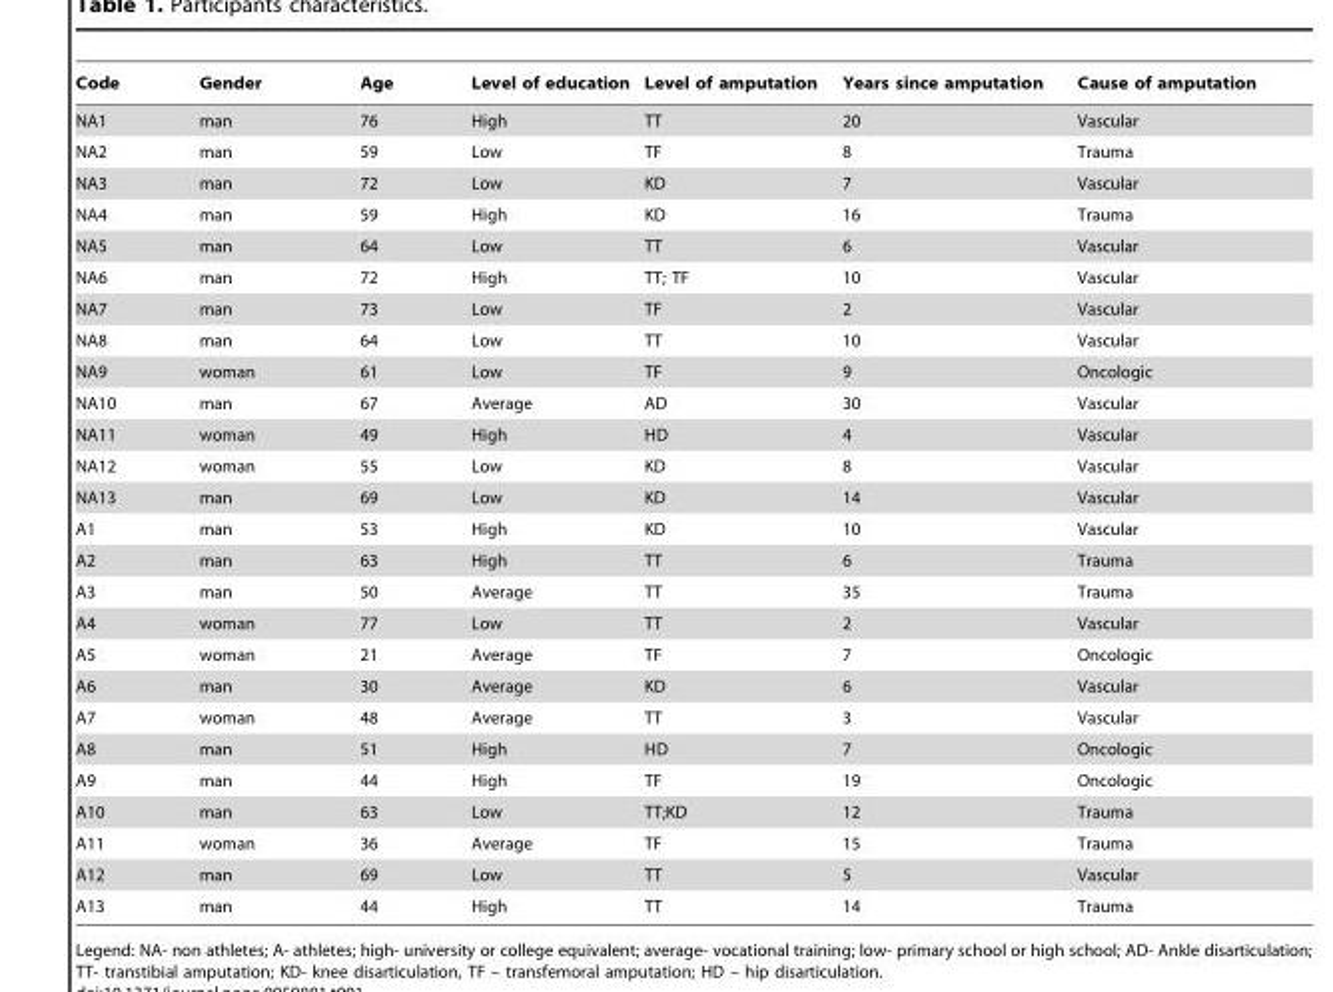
<table><thead><tr><td>Code</td><td>Gender</td><td>Age</td><td>Level of education</td><td>Level of amputation</td><td>Years since amputation</td><td>Cause of amputation</td></tr></thead><tbody><tr><td>NA1</td><td>man</td><td>76</td><td>High</td><td>TT</td><td>20</td><td>Vascular</td></tr><tr><td>NA2</td><td>man</td><td>59</td><td>Low</td><td>TF</td><td>8</td><td>Trauma</td></tr><tr><td>NA3</td><td>man</td><td>72</td><td>Low</td><td>KD</td><td>7</td><td>Vascular</td></tr><tr><td>NA4</td><td>man</td><td>59</td><td>High</td><td>KD</td><td>16</td><td>Trauma</td></tr><tr><td>NA5</td><td>man</td><td>64</td><td>Low</td><td>TT</td><td>6</td><td>Vascular</td></tr><tr><td>NA6</td><td>man</td><td>72</td><td>High</td><td>TT; TF</td><td>10</td><td>Vascular</td></tr><tr><td>NA7</td><td>man</td><td>73</td><td>Low</td><td>TF</td><td>2</td><td>Vascular</td></tr><tr><td>NA8</td><td>man</td><td>64</td><td>Low</td><td>TT</td><td>10</td><td>Vascular</td></tr><tr><td>NA9</td><td>woman</td><td>61</td><td>Low</td><td>TF</td><td>9</td><td>Oncologic</td></tr><tr><td>NA10</td><td>man</td><td>67</td><td>Average</td><td>AD</td><td>30</td><td>Vascular</td></tr><tr><td>NA11</td><td>woman</td><td>49</td><td>High</td><td>HD</td><td>4</td><td>Vascular</td></tr><tr><td>NA12</td><td>woman</td><td>55</td><td>Low</td><td>KD</td><td>8</td><td>Vascular</td></tr><tr><td>NA13</td><td>man</td><td>69</td><td>Low</td><td>KD</td><td>14</td><td>Vascular</td></tr><tr><td>A1</td><td>man</td><td>53</td><td>High</td><td>KD</td><td>10</td><td>Vascular</td></tr><tr><td>A2</td><td>man</td><td>63</td><td>High</td><td>TT</td><td>6</td><td>Trauma</td></tr><tr><td>A3</td><td>man</td><td>50</td><td>Average</td><td>TT</td><td>35</td><td>Trauma</td></tr><tr><td>A4</td><td>woman</td><td>77</td><td>Low</td><td>TT</td><td>2</td><td>Vascular</td></tr><tr><td>A5</td><td>woman</td><td>21</td><td>Average</td><td>TF</td><td>7</td><td>Oncologic</td></tr><tr><td>A6</td><td>man</td><td>30</td><td>Average</td><td>KD</td><td>6</td><td>Vascular</td></tr><tr><td>A7</td><td>woman</td><td>48</td><td>Average</td><td>TT</td><td>3</td><td>Vascular</td></tr><tr><td>A8</td><td>man</td><td>51</td><td>High</td><td>HD</td><td>7</td><td>Oncologic</td></tr><tr><td>A9</td><td>man</td><td>44</td><td>High</td><td>TF</td><td>19</td><td>Oncologic</td></tr><tr><td>A10</td><td>man</td><td>63</td><td>Low</td><td>TT;KD</td><td>12</td><td>Trauma</td></tr><tr><td>A11</td><td>woman</td><td>36</td><td>Average</td><td>TF</td><td>15</td><td>Trauma</td></tr><tr><td>A12</td><td>man</td><td>69</td><td>Low</td><td>TT</td><td>5</td><td>Vascular</td></tr><tr><td>A13</td><td>man</td><td>44</td><td>High</td><td>TT</td><td>14</td><td>Trauma</td></tr></tbody></table>